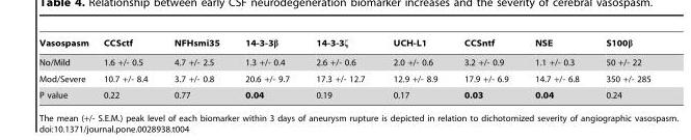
<table><thead><tr><td>Vasospasm</td><td>CCSctf</td><td>NFHsmi35</td><td>14-3-3β</td><td>14-3-3ζ</td><td>UCH-L1</td><td>CCSntf</td><td>NSE</td><td>S100β</td></tr></thead><tbody><tr><td>No/Mild</td><td>1.6 +/- 0.5</td><td>4.7 +/- 2.5</td><td>1.3 +/- 0.4</td><td>2.6 +/- 0.6</td><td>2.0 +/- 0.6</td><td>3.2 +/- 0.9</td><td>1.1 +/- 0.3</td><td>50 +/- 22</td></tr><tr><td>Mod/Severe</td><td>10.7 +/- 8.4</td><td>3.7 +/- 0.8</td><td>20.6 +/- 9.7</td><td>17.3 +/- 12.7</td><td>12.9 +/- 8.9</td><td>17.9 +/- 6.9</td><td>14.7 +/- 6.8</td><td>350 +/- 285</td></tr><tr><td>P value</td><td>0.22</td><td>0.77</td><td>0.04</td><td>0.19</td><td>0.17</td><td>0.03</td><td>0.04</td><td>0.24</td></tr></tbody></table>